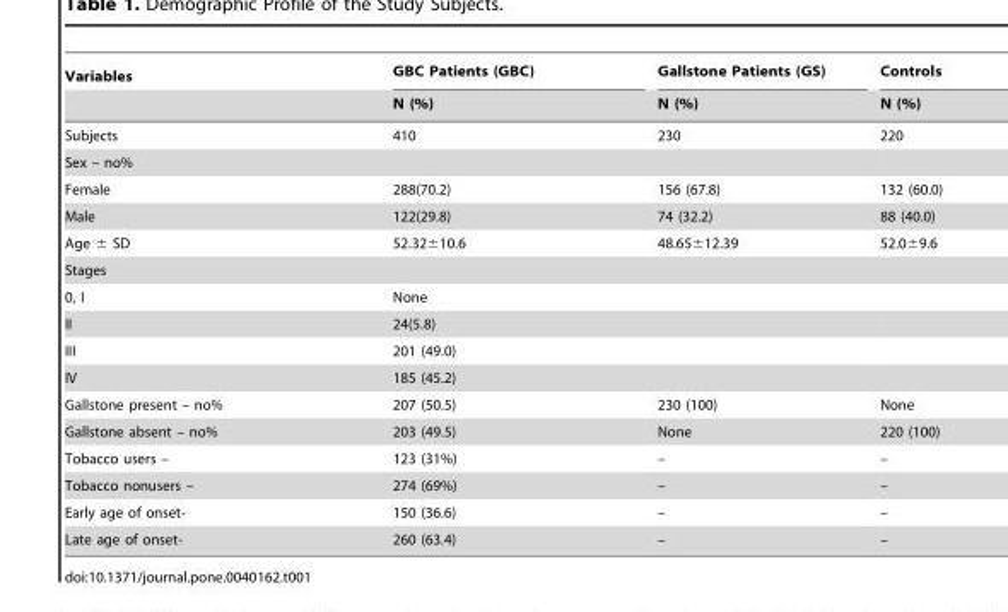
<table><thead><tr><td rowspan="2">Variables</td><td rowspan="2">GBC Patients (GBC) N (%)</td><td rowspan="2">Gallstone Patients (GS) N (%)</td><td rowspan="2">Controls N (%)</td></tr><tr></tr></thead><tbody><tr><td>Subjects</td><td>410</td><td>230</td><td>220</td></tr><tr><td colspan="4">Sex – no%</td></tr><tr><td>Female</td><td>288(70.2)</td><td>156 (67.8)</td><td>132 (60.0)</td></tr><tr><td>Male</td><td>122(29.8)</td><td>74 (32.2)</td><td>88 (40.0)</td></tr><tr><td>Age ± SD</td><td>52.32±10.6</td><td>48.65±12.39</td><td>52.0±9.6</td></tr><tr><td colspan="4">Stages</td></tr><tr><td>0, I</td><td>None</td><td></td><td></td></tr><tr><td>II</td><td>24(5.8)</td><td></td><td></td></tr><tr><td>III</td><td>201 (49.0)</td><td></td><td></td></tr><tr><td>IV</td><td>185 (45.2)</td><td></td><td></td></tr><tr><td>Gallstone present – no%</td><td>207 (50.5)</td><td>230 (100)</td><td>None</td></tr><tr><td>Gallstone absent – no%</td><td>203 (49.5)</td><td>None</td><td>220 (100)</td></tr><tr><td>Tobacco users –</td><td>123 (31%)</td><td>–</td><td>–</td></tr><tr><td>Tobacco nonusers –</td><td>274 (69%)</td><td>–</td><td>–</td></tr><tr><td>Early age of onset-</td><td>150 (36.6)</td><td>–</td><td>–</td></tr><tr><td>Late age of onset-</td><td>260 (63.4)</td><td>–</td><td>–</td></tr></tbody></table>